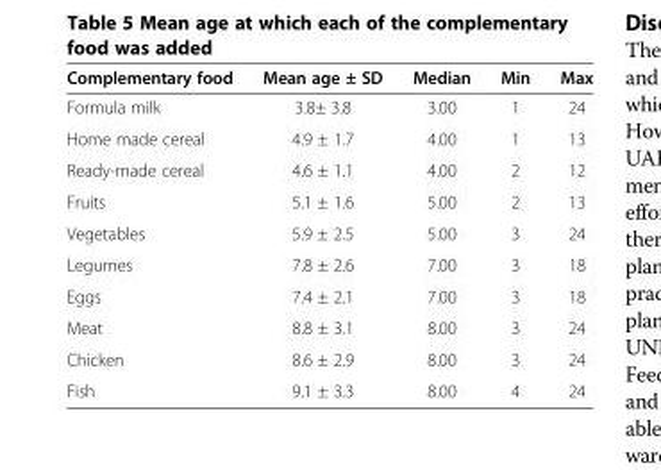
<table><thead><tr><td>Complementary food</td><td>Mean age ± SD</td><td>Median</td><td>Min</td><td>Max</td></tr></thead><tbody><tr><td>Formula milk</td><td>3.8± 3.8</td><td>3.00</td><td>1</td><td>24</td></tr><tr><td>Home made cereal</td><td>4.9 ± 1.7</td><td>4.00</td><td>1</td><td>13</td></tr><tr><td>Ready-made cereal</td><td>4.6 ± 1.1</td><td>4.00</td><td>2</td><td>12</td></tr><tr><td>Fruits</td><td>5.1 ± 1.6</td><td>5.00</td><td>2</td><td>13</td></tr><tr><td>Vegetables</td><td>5.9 ± 2.5</td><td>5.00</td><td>3</td><td>24</td></tr><tr><td>Legumes</td><td>7.8 ± 2.6</td><td>7.00</td><td>3</td><td>18</td></tr><tr><td>Eggs</td><td>7.4 ± 2.1</td><td>7.00</td><td>3</td><td>18</td></tr><tr><td>Meat</td><td>8.8 ± 3.1</td><td>8.00</td><td>3</td><td>24</td></tr><tr><td>Chicken</td><td>8.6 ± 2.9</td><td>8.00</td><td>3</td><td>24</td></tr><tr><td>Fish</td><td>9.1 ± 3.3</td><td>8.00</td><td>4</td><td>24</td></tr></tbody></table>